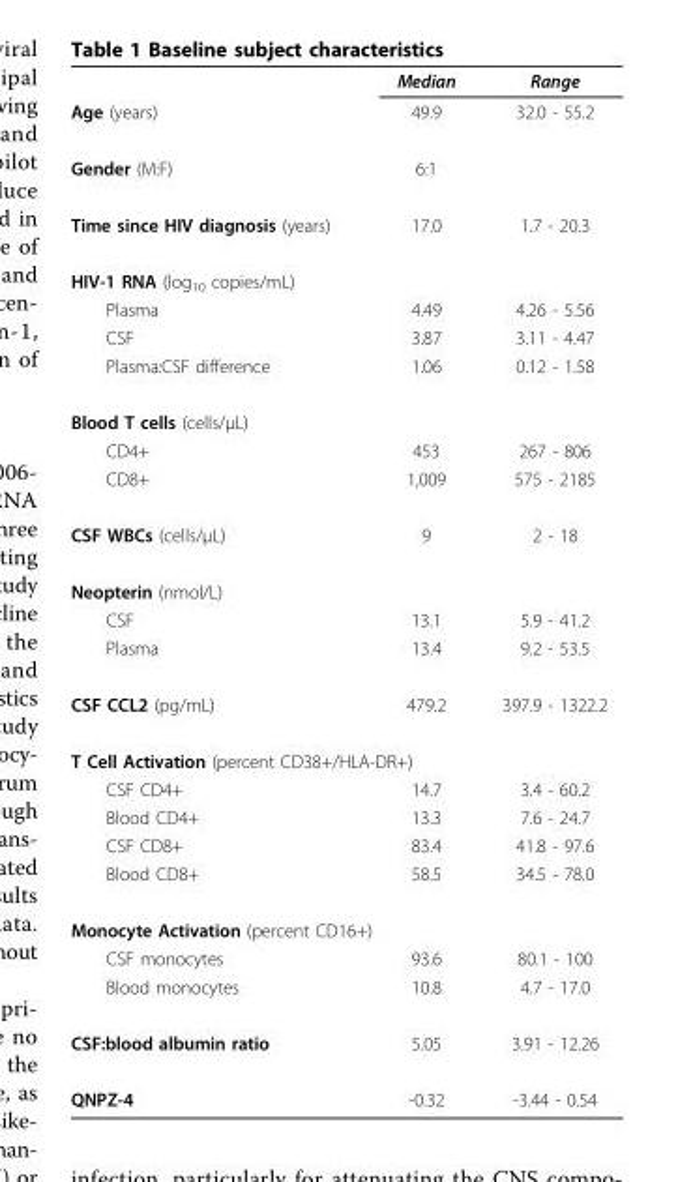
<table><thead><tr><td></td><td>Median</td><td>Range</td></tr></thead><tbody><tr><td>Age (years)</td><td>49.9</td><td>32.0 - 55.2</td></tr><tr><td>Gender (M:F)</td><td>6:1</td><td></td></tr><tr><td>Time since HIV diagnosis (years)</td><td>17.0</td><td>1.7 - 20.3</td></tr><tr><td colspan="3">HIV-1 RNA (log<sub>10</sub> copies/mL)</td></tr><tr><td>Plasma</td><td>4.49</td><td>4.26 - 5.56</td></tr><tr><td>CSF</td><td>3.87</td><td>3.11 - 4.47</td></tr><tr><td>Plasma:CSF difference</td><td>1.06</td><td>0.12 - 1.58</td></tr><tr><td colspan="3">Blood T cells (cells/μL)</td></tr><tr><td>CD4+</td><td>453</td><td>267 - 806</td></tr><tr><td>CD8+</td><td>1,009</td><td>575 - 2185</td></tr><tr><td>CSF WBCs (cells/μL)</td><td>9</td><td>2 - 18</td></tr><tr><td colspan="3">Neopterin (nmol/L)</td></tr><tr><td>CSF</td><td>13.1</td><td>5.9 - 41.2</td></tr><tr><td>Plasma</td><td>13.4</td><td>9.2 - 53.5</td></tr><tr><td>CSF CCL2 (pg/mL)</td><td>479.2</td><td>397.9 - 1322.2</td></tr><tr><td colspan="3">T Cell Activation (percent CD38+/HLA-DR+)</td></tr><tr><td>CSF CD4+</td><td>14.7</td><td>3.4 - 60.2</td></tr><tr><td>Blood CD4+</td><td>13.3</td><td>7.6 - 24.7</td></tr><tr><td>CSF CD8+</td><td>83.4</td><td>41.8 - 97.6</td></tr><tr><td>Blood CD8+</td><td>58.5</td><td>34.5 - 78.0</td></tr><tr><td colspan="3">Monocyte Activation (percent CD16+)</td></tr><tr><td>CSF monocytes</td><td>93.6</td><td>80.1 - 100</td></tr><tr><td>Blood monocytes</td><td>10.8</td><td>4.7 - 17.0</td></tr><tr><td>CSF:blood albumin ratio</td><td>5.05</td><td>3.91 - 12.26</td></tr><tr><td>QNPZ-4</td><td>-0.32</td><td>-3.44 - 0.54</td></tr></tbody></table>